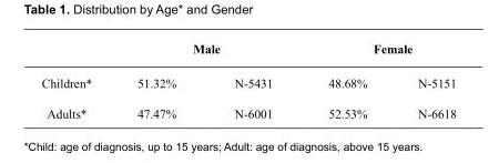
<table><thead><tr><td rowspan="2">Children*</td><td colspan="2">Male</td><td colspan="2">Female</td></tr><tr><td>51.32%</td><td>N-5431</td><td>48.68%</td><td>N-5151</td></tr></thead><tbody><tr><td>Adults*</td><td>47.47%</td><td>N-6001</td><td>52.53%</td><td>N-6618</td></tr></tbody></table>